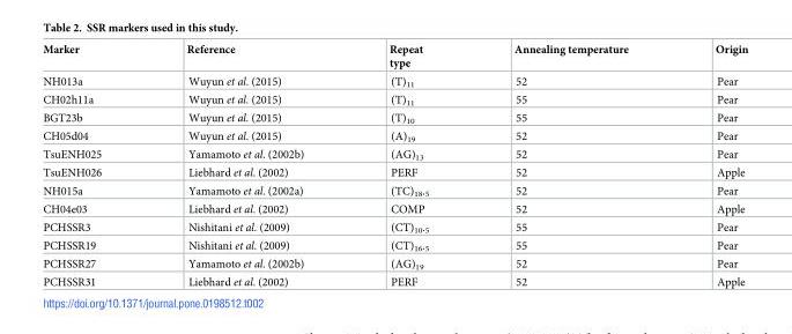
<table><thead><tr><td>Marker</td><td>Reference</td><td>Repeat type</td><td>Annealing temperature</td><td>Origin</td></tr></thead><tbody><tr><td>NH013a</td><td>Wuyun et al. (2015)</td><td>(T)<sub>11</sub></td><td>52</td><td>Pear</td></tr><tr><td>CH02h11a</td><td>Wuyun et al. (2015)</td><td>(T)<sub>11</sub></td><td>55</td><td>Pear</td></tr><tr><td>BGT23b</td><td>Wuyun et al. (2015)</td><td>(T)<sub>10</sub></td><td>55</td><td>Pear</td></tr><tr><td>CH05d04</td><td>Wuyun et al. (2015)</td><td>(A)<sub>19</sub></td><td>52</td><td>Pear</td></tr><tr><td>TsuENH025</td><td>Yamamoto et al. (2002b)</td><td>(AG)<sub>13</sub></td><td>52</td><td>Pear</td></tr><tr><td>TsuENH026</td><td>Liebhard et al. (2002)</td><td>PERF</td><td>52</td><td>Apple</td></tr><tr><td>NH015a</td><td>Yamamoto et al. (2002a)</td><td>(TC)<sub>18</sub>.<sub>5</sub></td><td>52</td><td>Pear</td></tr><tr><td>CH04e03</td><td>Liebhard et al. (2002)</td><td>COMP</td><td>52</td><td>Apple</td></tr><tr><td>PCHSSR3</td><td>Nishitani et al. (2009)</td><td>(CT)<sub>10</sub>.<sub>5</sub></td><td>55</td><td>Pear</td></tr><tr><td>PCHSSR19</td><td>Nishitani et al. (2009)</td><td>(CT)<sub>16</sub>.<sub>5</sub></td><td>55</td><td>Pear</td></tr><tr><td>PCHSSR27</td><td>Yamamoto et al. (2002b)</td><td>(AG)<sub>19</sub></td><td>52</td><td>Pear</td></tr><tr><td>PCHSSR31</td><td>Liebhard et al. (2002)</td><td>PERF</td><td>52</td><td>Apple</td></tr></tbody></table>